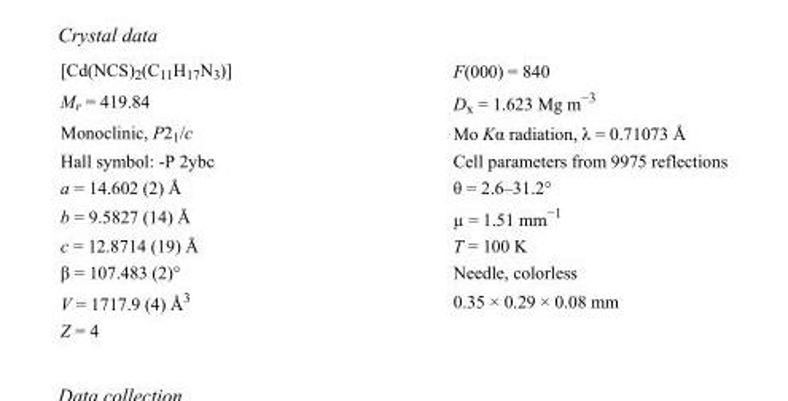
<table><tbody><tr><td>[Cd(NCS)<sub>2</sub>(C<sub>11</sub>H<sub>17</sub>N<sub>3</sub>)]</td><td>F(000) = 840</td></tr><tr><td>M<sub>r</sub> = 419.84</td><td>D<sub>x</sub> = 1.623 Mg m<sup>−3</sup></td></tr><tr><td>Monoclinic, P2<sub>1</sub>/c</td><td>Mo Kα radiation, λ = 0.71073 Å</td></tr><tr><td>Hall symbol: -P 2ybc</td><td>Cell parameters from 9975 reflections</td></tr><tr><td>a = 14.602 (2) Å</td><td>θ = 2.6–31.2°</td></tr><tr><td>b = 9.5827 (14) Å</td><td>µ = 1.51 mm<sup>−1</sup></td></tr><tr><td>c = 12.8714 (19) Å</td><td>T = 100 K</td></tr><tr><td>β = 107.483 (2)°</td><td>Needle, colorless</td></tr><tr><td>V = 1717.9 (4) Å<sup>3</sup></td><td>0.35 × 0.29 × 0.08 mm</td></tr><tr><td>Z = 4</td><td></td></tr></tbody></table>